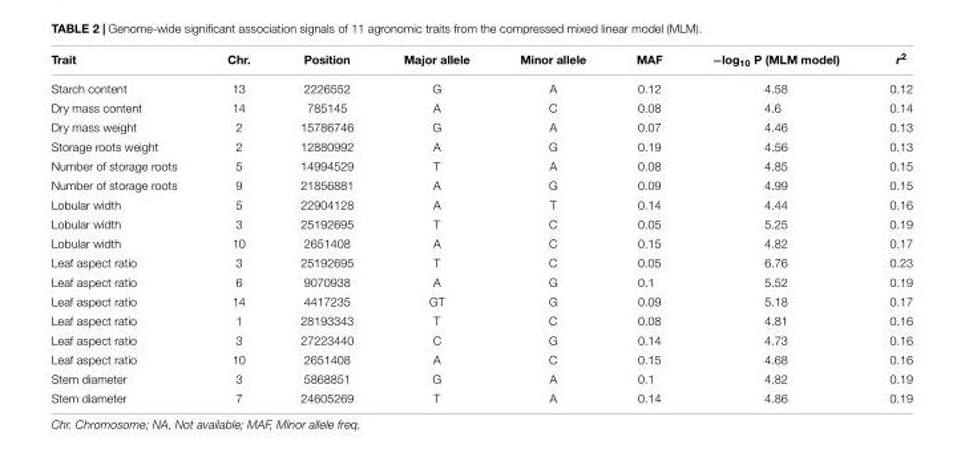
<table><thead><tr><td>Trait</td><td>Chr.</td><td>Position</td><td>Major allele</td><td>Minor allele</td><td>MAF</td><td>−log<sub>10</sub> P (MLM model)</td><td>r<sup>2</sup></td></tr></thead><tbody><tr><td>Starch content</td><td>13</td><td>2226552</td><td>G</td><td>A</td><td>0.12</td><td>4.58</td><td>0.12</td></tr><tr><td>Dry mass content</td><td>14</td><td>785145</td><td>A</td><td>C</td><td>0.08</td><td>4.6</td><td>0.14</td></tr><tr><td>Dry mass weight</td><td>2</td><td>15786746</td><td>G</td><td>A</td><td>0.07</td><td>4.46</td><td>0.13</td></tr><tr><td>Storage roots weight</td><td>2</td><td>12880992</td><td>A</td><td>G</td><td>0.19</td><td>4.56</td><td>0.13</td></tr><tr><td>Number of storage roots</td><td>5</td><td>14994529</td><td>T</td><td>A</td><td>0.08</td><td>4.85</td><td>0.15</td></tr><tr><td>Number of storage roots</td><td>9</td><td>21856881</td><td>A</td><td>G</td><td>0.09</td><td>4.99</td><td>0.15</td></tr><tr><td>Lobular width</td><td>5</td><td>22904128</td><td>A</td><td>T</td><td>0.14</td><td>4.44</td><td>0.16</td></tr><tr><td>Lobular width</td><td>3</td><td>25192695</td><td>T</td><td>C</td><td>0.05</td><td>5.25</td><td>0.19</td></tr><tr><td>Lobular width</td><td>10</td><td>2651408</td><td>A</td><td>C</td><td>0.15</td><td>4.82</td><td>0.17</td></tr><tr><td>Leaf aspect ratio</td><td>3</td><td>25192695</td><td>T</td><td>C</td><td>0.05</td><td>6.76</td><td>0.23</td></tr><tr><td>Leaf aspect ratio</td><td>6</td><td>9070938</td><td>A</td><td>G</td><td>0.1</td><td>5.52</td><td>0.19</td></tr><tr><td>Leaf aspect ratio</td><td>14</td><td>4417235</td><td>GT</td><td>G</td><td>0.09</td><td>5.18</td><td>0.17</td></tr><tr><td>Leaf aspect ratio</td><td>1</td><td>28193343</td><td>T</td><td>C</td><td>0.08</td><td>4.81</td><td>0.16</td></tr><tr><td>Leaf aspect ratio</td><td>3</td><td>27223440</td><td>C</td><td>G</td><td>0.14</td><td>4.73</td><td>0.16</td></tr><tr><td>Leaf aspect ratio</td><td>10</td><td>2651408</td><td>A</td><td>C</td><td>0.15</td><td>4.68</td><td>0.16</td></tr><tr><td>Stem diameter</td><td>3</td><td>5868851</td><td>G</td><td>A</td><td>0.1</td><td>4.82</td><td>0.19</td></tr><tr><td>Stem diameter</td><td>7</td><td>24605269</td><td>T</td><td>A</td><td>0.14</td><td>4.86</td><td>0.19</td></tr></tbody></table>